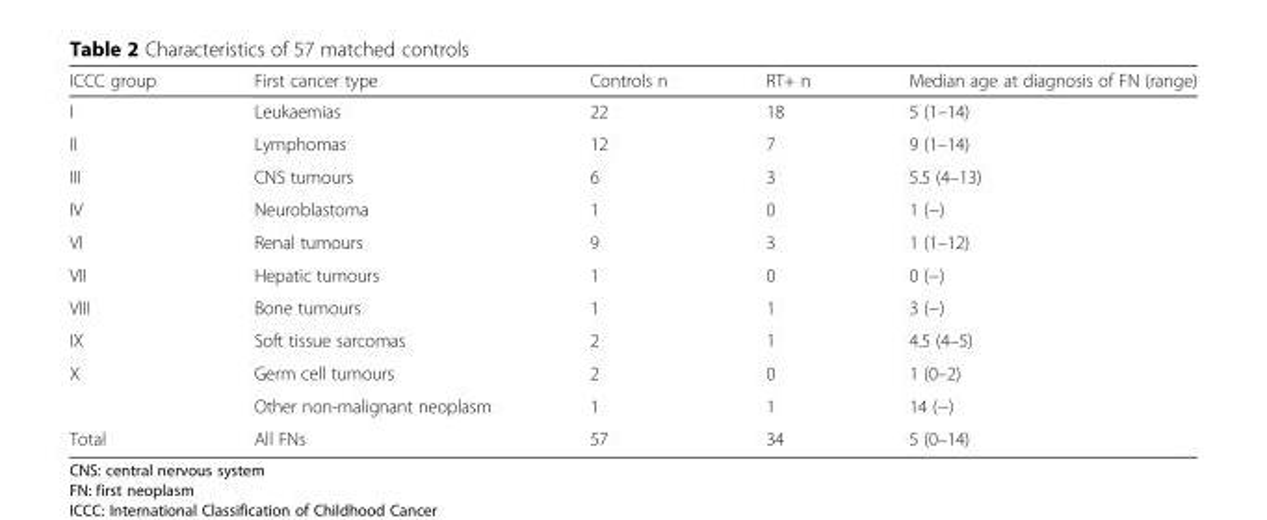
<table><thead><tr><td>ICCC group</td><td>First cancer type</td><td>Controls n</td><td>RT+ n</td><td>Median age at diagnosis of FN (range)</td></tr></thead><tbody><tr><td>I</td><td>Leukaemias</td><td>22</td><td>18</td><td>5 (1–14)</td></tr><tr><td>II</td><td>Lymphomas</td><td>12</td><td>7</td><td>9 (1–14)</td></tr><tr><td>III</td><td>CNS tumours</td><td>6</td><td>3</td><td>5.5 (4–13)</td></tr><tr><td>IV</td><td>Neuroblastoma</td><td>1</td><td>0</td><td>1 (−)</td></tr><tr><td>VI</td><td>Renal tumours</td><td>9</td><td>3</td><td>1 (1–12)</td></tr><tr><td>VII</td><td>Hepatic tumours</td><td>1</td><td>0</td><td>0 (−)</td></tr><tr><td>VIII</td><td>Bone tumours</td><td>1</td><td>1</td><td>3 (−)</td></tr><tr><td>IX</td><td>Soft tissue sarcomas</td><td>2</td><td>1</td><td>4.5 (4–5)</td></tr><tr><td rowspan="2">X</td><td>Germ cell tumours</td><td>2</td><td>0</td><td>1 (0–2)</td></tr><tr><td>Other non-malignant neoplasm</td><td>1</td><td>1</td><td>14 (−)</td></tr><tr><td>Total</td><td>All FNs</td><td>57</td><td>34</td><td>5 (0–14)</td></tr></tbody></table>